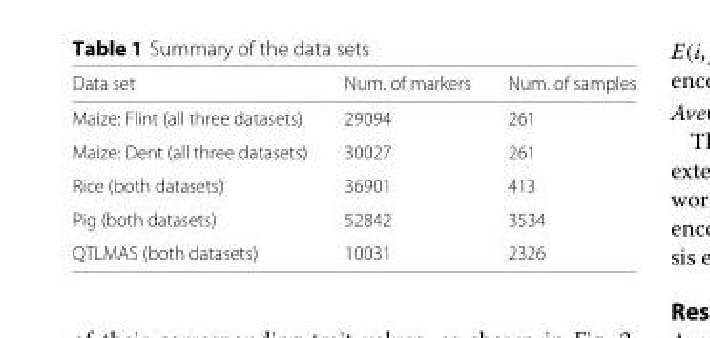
<table><thead><tr><td>Data set</td><td>Num. of markers</td><td>Num. of samples</td></tr></thead><tbody><tr><td>Maize: Flint (all three datasets)</td><td>29094</td><td>261</td></tr><tr><td>Maize: Dent (all three datasets)</td><td>30027</td><td>261</td></tr><tr><td>Rice (both datasets)</td><td>36901</td><td>413</td></tr><tr><td>Pig (both datasets)</td><td>52842</td><td>3534</td></tr><tr><td>QTLMAS (both datasets)</td><td>10031</td><td>2326</td></tr></tbody></table>